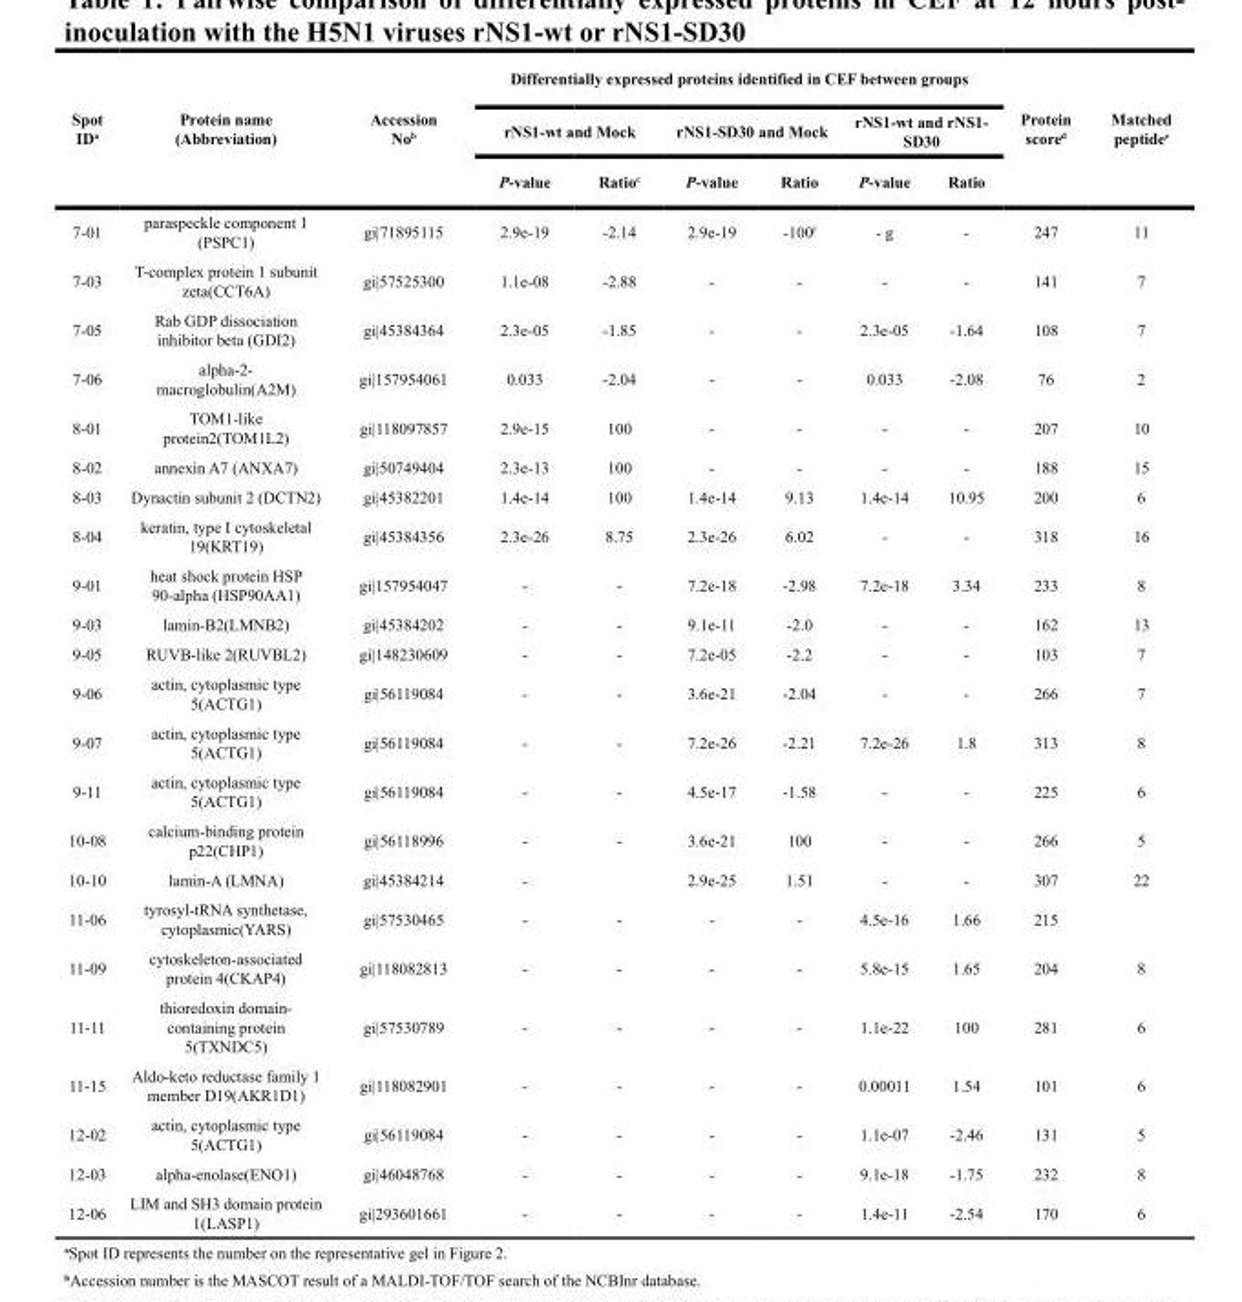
<table><thead><tr><td rowspan="3">Spot ID<sup>a</sup></td><td rowspan="3">Protein name (Abbreviation)</td><td rowspan="3">Accession No<sup>b</sup></td><td colspan="6">Differentially expressed proteins identified in CEF between groups</td><td rowspan="3">Protein score<sup>d</sup></td><td rowspan="3">Matched peptide<sup>e</sup></td></tr><tr><td colspan="2">rNS1-wt and Mock</td><td colspan="2">rNS1-SD30 and Mock</td><td colspan="2">rNS1-wt and rNS1- SD30</td></tr><tr><td>P-value</td><td>Ratio<sup>c</sup></td><td>P-value</td><td>Ratio</td><td>P-value</td><td>Ratio</td></tr></thead><tbody><tr><td>7-01</td><td>paraspeckle component 1 (PSPC1)</td><td>gi|71895115</td><td>2.9e-19</td><td>-2.14</td><td>2.9e-19</td><td>-100<sup>f</sup></td><td>- g</td><td>-</td><td>247</td><td>11</td></tr><tr><td>7-03</td><td>T-complex protein 1 subunit zeta(CCT6A)</td><td>gi|57525300</td><td>1.1e-08</td><td>-2.88</td><td>-</td><td>-</td><td>-</td><td>-</td><td>141</td><td>7</td></tr><tr><td>7-05</td><td>Rab GDP dissociation inhibitor beta (GDI2)</td><td>gi|45384364</td><td>2.3e-05</td><td>-1.85</td><td>-</td><td>-</td><td>2.3e-05</td><td>-1.64</td><td>108</td><td>7</td></tr><tr><td>7-06</td><td>alpha-2- macroglobulin(A2M)</td><td>gi|157954061</td><td>0.033</td><td>-2.04</td><td>-</td><td>-</td><td>0.033</td><td>-2.08</td><td>76</td><td>2</td></tr><tr><td>8-01</td><td>TOM1-like protein2(TOM1L2)</td><td>gi|118097857</td><td>2.9e-15</td><td>100</td><td>-</td><td>-</td><td>-</td><td>-</td><td>207</td><td>10</td></tr><tr><td>8-02</td><td>annexin A7 (ANXA7)</td><td>gi|50749404</td><td>2.3e-13</td><td>100</td><td>-</td><td>-</td><td>-</td><td>-</td><td>188</td><td>15</td></tr><tr><td>8-03</td><td>Dynactin subunit 2 (DCTN2)</td><td>gi|45382201</td><td>1.4e-14</td><td>100</td><td>1.4e-14</td><td>9.13</td><td>1.4e-14</td><td>10.95</td><td>200</td><td>6</td></tr><tr><td>8-04</td><td>keratin, type I cytoskeletal 19(KRT19)</td><td>gi|45384356</td><td>2.3e-26</td><td>8.75</td><td>2.3e-26</td><td>6.02</td><td>-</td><td>-</td><td>318</td><td>16</td></tr><tr><td>9-01</td><td>heat shock protein HSP 90-alpha (HSP90AA1)</td><td>gi|157954047</td><td>-</td><td>-</td><td>7.2e-18</td><td>-2.98</td><td>7.2e-18</td><td>3.34</td><td>233</td><td>8</td></tr><tr><td>9-03</td><td>lamin-B2(LMNB2)</td><td>gi|45384202</td><td>-</td><td>-</td><td>9.1e-11</td><td>-2.0</td><td>-</td><td>-</td><td>162</td><td>13</td></tr><tr><td>9-05</td><td>RUVB-like 2(RUVBL2)</td><td>gi|148230609</td><td>-</td><td>-</td><td>7.2e-05</td><td>-2.2</td><td>-</td><td>-</td><td>103</td><td>7</td></tr><tr><td>9-06</td><td>actin, cytoplasmic type 5(ACTG1)</td><td>gi|56119084</td><td>-</td><td>-</td><td>3.6e-21</td><td>-2.04</td><td>-</td><td>-</td><td>266</td><td>7</td></tr><tr><td>9-07</td><td>actin, cytoplasmic type 5(ACTG1)</td><td>gi|56119084</td><td>-</td><td>-</td><td>7.2e-26</td><td>-2.21</td><td>7.2e-26</td><td>1.8</td><td>313</td><td>8</td></tr><tr><td>9-11</td><td>actin, cytoplasmic type 5(ACTG1)</td><td>gi|56119084</td><td>-</td><td>-</td><td>4.5e-17</td><td>-1.58</td><td>-</td><td>-</td><td>225</td><td>6</td></tr><tr><td>10-08</td><td>calcium-binding protein p22(CHP1)</td><td>gi|56118996</td><td>-</td><td>-</td><td>3.6e-21</td><td>100</td><td>-</td><td>-</td><td>266</td><td>5</td></tr><tr><td>10-10</td><td>lamin-A (LMNA)</td><td>gi|45384214</td><td>-</td><td></td><td>2.9e-25</td><td>1.51</td><td>-</td><td>-</td><td>307</td><td>22</td></tr><tr><td>11-06</td><td>tyrosyl-tRNA synthetase, cytoplasmic(YARS)</td><td>gi|57530465</td><td>-</td><td>-</td><td>-</td><td>-</td><td>4.5e-16</td><td>1.66</td><td>215</td><td></td></tr><tr><td>11-09</td><td>cytoskeleton-associated protein 4(CKAP4)</td><td>gi|118082813</td><td>-</td><td>-</td><td>-</td><td>-</td><td>5.8e-15</td><td>1.65</td><td>204</td><td>8</td></tr><tr><td>11-11</td><td>thioredoxin domain- containing protein 5(TXNDC5)</td><td>gi|57530789</td><td>-</td><td>-</td><td>-</td><td>-</td><td>1.1e-22</td><td>100</td><td>281</td><td>6</td></tr><tr><td>11-15</td><td>Aldo-keto reductase family 1 member D19(AKR1D1)</td><td>gi|118082901</td><td>-</td><td>-</td><td>-</td><td>-</td><td>0.00011</td><td>1.54</td><td>101</td><td>6</td></tr><tr><td>12-02</td><td>actin, cytoplasmic type 5(ACTG1)</td><td>gi|56119084</td><td>-</td><td>-</td><td>-</td><td>-</td><td>1.1e-07</td><td>-2.46</td><td>131</td><td>5</td></tr><tr><td>12-03</td><td>alpha-enolase(ENO1)</td><td>gi|46048768</td><td>-</td><td>-</td><td>-</td><td>-</td><td>9.1e-18</td><td>-1.75</td><td>232</td><td>8</td></tr><tr><td>12-06</td><td>LIM and SH3 domain protein 1(LASP1)</td><td>gi|293601661</td><td>-</td><td>-</td><td>-</td><td>-</td><td>1.4e-11</td><td>-2.54</td><td>170</td><td>6</td></tr></tbody></table>